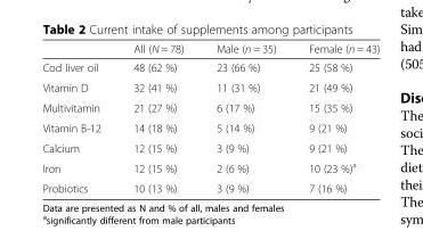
<table><thead><tr><td></td><td>All (N = 78)</td><td>Male (n = 35)</td><td>Female (n = 43)</td></tr></thead><tbody><tr><td>Cod liver oil</td><td>48 (62 %)</td><td>23 (66 %)</td><td>25 (58 %)</td></tr><tr><td>Vitamin D</td><td>32 (41 %)</td><td>11 (31 %)</td><td>21 (49 %)</td></tr><tr><td>Multivitamin</td><td>21 (27 %)</td><td>6 (17 %)</td><td>15 (35 %)</td></tr><tr><td>Vitamin B-12</td><td>14 (18 %)</td><td>5 (14 %)</td><td>9 (21 %)</td></tr><tr><td>Calcium</td><td>12 (15 %)</td><td>3 (9 %)</td><td>9 (21 %)</td></tr><tr><td>Iron</td><td>12 (15 %)</td><td>2 (6 %)</td><td>10 (23 %)<sup>a</sup></td></tr><tr><td>Probiotics</td><td>10 (13 %)</td><td>3 (9 %)</td><td>7 (16 %)</td></tr></tbody></table>